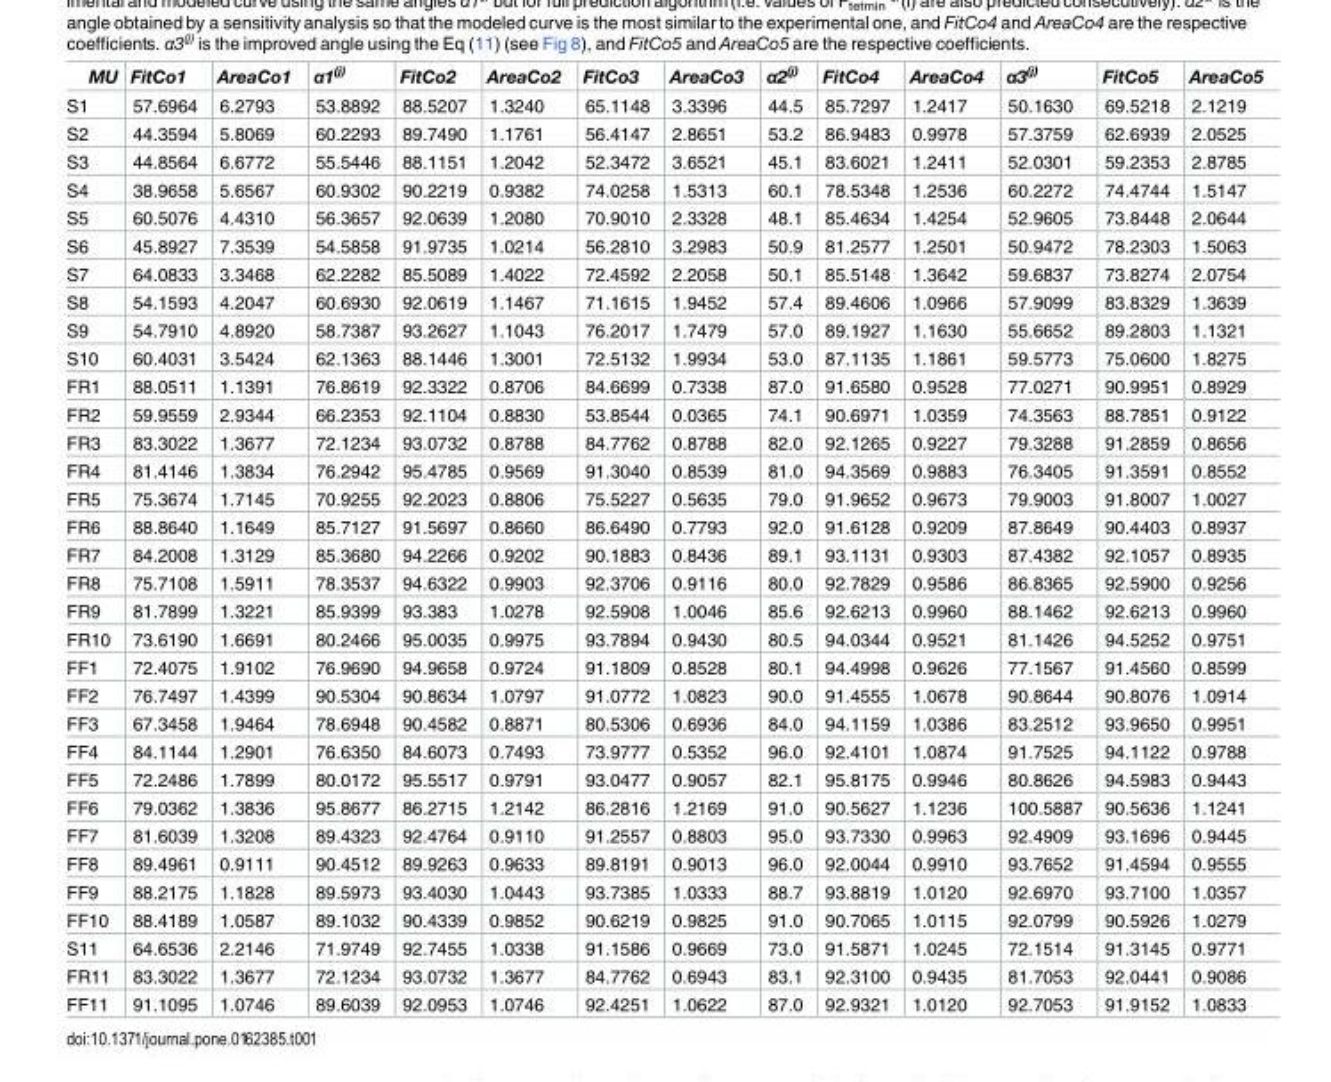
<table><thead><tr><td>MU</td><td>FitCo1</td><td>AreaCo1</td><td>α1<sup>(j)</sup></td><td>FitCo2</td><td>AreaCo2</td><td>FitCo3</td><td>AreaCo3</td><td>α2<sup>(j)</sup></td><td>FitCo4</td><td>AreaCo4</td><td>α3<sup>(j)</sup></td><td>FitCo5</td><td>AreaCo5</td></tr></thead><tbody><tr><td>S1</td><td>57.6964</td><td>6.2793</td><td>53.8892</td><td>88.5207</td><td>1.3240</td><td>65.1148</td><td>3.3396</td><td>44.5</td><td>85.7297</td><td>1.2417</td><td>50.1630</td><td>69.5218</td><td>2.1219</td></tr><tr><td>S2</td><td>44.3594</td><td>5.8069</td><td>60.2293</td><td>89.7490</td><td>1.1761</td><td>56.4147</td><td>2.8651</td><td>53.2</td><td>86.9483</td><td>0.9978</td><td>57.3759</td><td>62.6939</td><td>2.0525</td></tr><tr><td>S3</td><td>44.8564</td><td>6.6772</td><td>55.5446</td><td>88.1151</td><td>1.2042</td><td>52.3472</td><td>3.6521</td><td>45.1</td><td>83.6021</td><td>1.2411</td><td>52.0301</td><td>59.2353</td><td>2.8785</td></tr><tr><td>S4</td><td>38.9658</td><td>5.6567</td><td>60.9302</td><td>90.2219</td><td>0.9382</td><td>74.0258</td><td>1.5313</td><td>60.1</td><td>78.5348</td><td>1.2536</td><td>60.2272</td><td>74.4744</td><td>1.5147</td></tr><tr><td>S5</td><td>60.5076</td><td>4.4310</td><td>56.3657</td><td>92.0639</td><td>1.2080</td><td>70.9010</td><td>2.3328</td><td>48.1</td><td>85.4634</td><td>1.4254</td><td>52.9605</td><td>73.8448</td><td>2.0644</td></tr><tr><td>S6</td><td>45.8927</td><td>7.3539</td><td>54.5858</td><td>91.9735</td><td>1.0214</td><td>56.2810</td><td>3.2983</td><td>50.9</td><td>81.2577</td><td>1.2501</td><td>50.9472</td><td>78.2303</td><td>1.5063</td></tr><tr><td>S7</td><td>64.0833</td><td>3.3468</td><td>62.2282</td><td>85.5089</td><td>1.4022</td><td>72.4592</td><td>2.2058</td><td>50.1</td><td>85.5148</td><td>1.3642</td><td>59.6837</td><td>73.8274</td><td>2.0754</td></tr><tr><td>S8</td><td>54.1593</td><td>4.2047</td><td>60.6930</td><td>92.0619</td><td>1.1467</td><td>71.1615</td><td>1.9452</td><td>57.4</td><td>89.4606</td><td>1.0966</td><td>57.9099</td><td>83.8329</td><td>1.3639</td></tr><tr><td>S9</td><td>54.7910</td><td>4.8920</td><td>58.7387</td><td>93.2627</td><td>1.1043</td><td>76.2017</td><td>1.7479</td><td>57.0</td><td>89.1927</td><td>1.1630</td><td>55.6652</td><td>89.2803</td><td>1.1321</td></tr><tr><td>S10</td><td>60.4031</td><td>3.5424</td><td>62.1363</td><td>88.1446</td><td>1.3001</td><td>72.5132</td><td>1.9934</td><td>53.0</td><td>87.1135</td><td>1.1861</td><td>59.5773</td><td>75.0600</td><td>1.8275</td></tr><tr><td>FR1</td><td>88.0511</td><td>1.1391</td><td>76.8619</td><td>92.3322</td><td>0.8706</td><td>84.6699</td><td>0.7338</td><td>87.0</td><td>91.6580</td><td>0.9528</td><td>77.0271</td><td>90.9951</td><td>0.8929</td></tr><tr><td>FR2</td><td>59.9559</td><td>2.9344</td><td>66.2353</td><td>92.1104</td><td>0.8830</td><td>53.8544</td><td>0.0365</td><td>74.1</td><td>90.6971</td><td>1.0359</td><td>74.3563</td><td>88.7851</td><td>0.9122</td></tr><tr><td>FR3</td><td>83.3022</td><td>1.3677</td><td>72.1234</td><td>93.0732</td><td>0.8788</td><td>84.7762</td><td>0.8788</td><td>82.0</td><td>92.1265</td><td>0.9227</td><td>79.3288</td><td>91.2859</td><td>0.8656</td></tr><tr><td>FR4</td><td>81.4146</td><td>1.3834</td><td>76.2942</td><td>95.4785</td><td>0.9569</td><td>91.3040</td><td>0.8539</td><td>81.0</td><td>94.3569</td><td>0.9883</td><td>76.3405</td><td>91.3591</td><td>0.8552</td></tr><tr><td>FR5</td><td>75.3674</td><td>1.7145</td><td>70.9255</td><td>92.2023</td><td>0.8806</td><td>75.5227</td><td>0.5635</td><td>79.0</td><td>91.9652</td><td>0.9673</td><td>79.9003</td><td>91.8007</td><td>1.0027</td></tr><tr><td>FR6</td><td>88.8640</td><td>1.1649</td><td>85.7127</td><td>91.5697</td><td>0.8660</td><td>86.6490</td><td>0.7793</td><td>92.0</td><td>91.6128</td><td>0.9209</td><td>87.8649</td><td>90.4403</td><td>0.8937</td></tr><tr><td>FR7</td><td>84.2008</td><td>1.3129</td><td>85.3680</td><td>94.2266</td><td>0.9202</td><td>90.1883</td><td>0.8436</td><td>89.1</td><td>93.1131</td><td>0.9303</td><td>87.4382</td><td>92.1057</td><td>0.8935</td></tr><tr><td>FR8</td><td>75.7108</td><td>1.5911</td><td>78.3537</td><td>94.6322</td><td>0.9903</td><td>92.3706</td><td>0.9116</td><td>80.0</td><td>92.7829</td><td>0.9586</td><td>86.8365</td><td>92.5900</td><td>0.9256</td></tr><tr><td>FR9</td><td>81.7899</td><td>1.3221</td><td>85.9399</td><td>93.383</td><td>1.0278</td><td>92.5908</td><td>1.0046</td><td>85.6</td><td>92.6213</td><td>0.9960</td><td>88.1462</td><td>92.6213</td><td>0.9960</td></tr><tr><td>FR10</td><td>73.6190</td><td>1.6691</td><td>80.2466</td><td>95.0035</td><td>0.9975</td><td>93.7894</td><td>0.9430</td><td>80.5</td><td>94.0344</td><td>0.9521</td><td>81.1426</td><td>94.5252</td><td>0.9751</td></tr><tr><td>FF1</td><td>72.4075</td><td>1.9102</td><td>76.9690</td><td>94.9658</td><td>0.9724</td><td>91.1809</td><td>0.8528</td><td>80.1</td><td>94.4998</td><td>0.9626</td><td>77.1567</td><td>91.4560</td><td>0.8599</td></tr><tr><td>FF2</td><td>76.7497</td><td>1.4399</td><td>90.5304</td><td>90.8634</td><td>1.0797</td><td>91.0772</td><td>1.0823</td><td>90.0</td><td>91.4555</td><td>1.0678</td><td>90.8644</td><td>90.8076</td><td>1.0914</td></tr><tr><td>FF3</td><td>67.3458</td><td>1.9464</td><td>78.6948</td><td>90.4582</td><td>0.8871</td><td>80.5306</td><td>0.6936</td><td>84.0</td><td>94.1159</td><td>1.0386</td><td>83.2512</td><td>93.9650</td><td>0.9951</td></tr><tr><td>FF4</td><td>84.1144</td><td>1.2901</td><td>76.6350</td><td>84.6073</td><td>0.7493</td><td>73.9777</td><td>0.5352</td><td>96.0</td><td>92.4101</td><td>1.0874</td><td>91.7525</td><td>94.1122</td><td>0.9788</td></tr><tr><td>FF5</td><td>72.2486</td><td>1.7899</td><td>80.0172</td><td>95.5517</td><td>0.9791</td><td>93.0477</td><td>0.9057</td><td>82.1</td><td>95.8175</td><td>0.9946</td><td>80.8626</td><td>94.5983</td><td>0.9443</td></tr><tr><td>FF6</td><td>79.0362</td><td>1.3836</td><td>95.8677</td><td>86.2715</td><td>1.2142</td><td>86.2816</td><td>1.2169</td><td>91.0</td><td>90.5627</td><td>1.1236</td><td>100.5887</td><td>90.5636</td><td>1.1241</td></tr><tr><td>FF7</td><td>81.6039</td><td>1.3208</td><td>89.4323</td><td>92.4764</td><td>0.9110</td><td>91.2557</td><td>0.8803</td><td>95.0</td><td>93.7330</td><td>0.9963</td><td>92.4909</td><td>93.1696</td><td>0.9445</td></tr><tr><td>FF8</td><td>89.4961</td><td>0.9111</td><td>90.4512</td><td>89.9263</td><td>0.9633</td><td>89.8191</td><td>0.9013</td><td>96.0</td><td>92.0044</td><td>0.9910</td><td>93.7652</td><td>91.4594</td><td>0.9555</td></tr><tr><td>FF9</td><td>88.2175</td><td>1.1828</td><td>89.5973</td><td>93.4030</td><td>1.0443</td><td>93.7385</td><td>1.0333</td><td>88.7</td><td>93.8819</td><td>1.0120</td><td>92.6970</td><td>93.7100</td><td>1.0357</td></tr><tr><td>FF10</td><td>88.4189</td><td>1.0587</td><td>89.1032</td><td>90.4339</td><td>0.9852</td><td>90.6219</td><td>0.9825</td><td>91.0</td><td>90.7065</td><td>1.0115</td><td>92.0799</td><td>90.5926</td><td>1.0279</td></tr><tr><td>S11</td><td>64.6536</td><td>2.2146</td><td>71.9749</td><td>92.7455</td><td>1.0338</td><td>91.1586</td><td>0.9669</td><td>73.0</td><td>91.5871</td><td>1.0245</td><td>72.1514</td><td>91.3145</td><td>0.9771</td></tr><tr><td>FR11</td><td>83.3022</td><td>1.3677</td><td>72.1234</td><td>93.0732</td><td>1.3677</td><td>84.7762</td><td>0.6943</td><td>83.1</td><td>92.3100</td><td>0.9435</td><td>81.7053</td><td>92.0441</td><td>0.9086</td></tr><tr><td>FF11</td><td>91.1095</td><td>1.0746</td><td>89.6039</td><td>92.0953</td><td>1.0746</td><td>92.4251</td><td>1.0622</td><td>87.0</td><td>92.9321</td><td>1.0120</td><td>92.7053</td><td>91.9152</td><td>1.0833</td></tr></tbody></table>